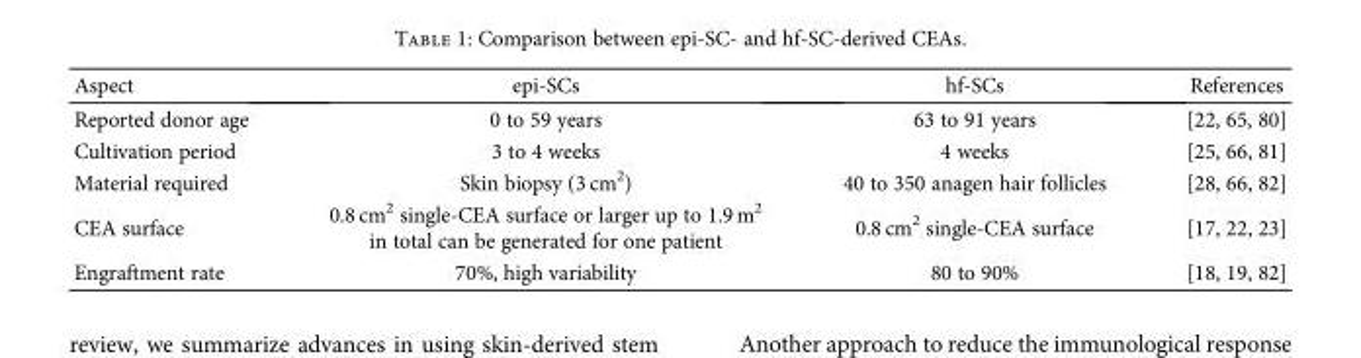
<table><thead><tr><td>Aspect</td><td>epi-SCs</td><td>hf-SCs</td><td>References</td></tr></thead><tbody><tr><td>Reported donor age</td><td>0 to 59 years</td><td>63 to 91 years</td><td>[22, 65, 80]</td></tr><tr><td>Cultivation period</td><td>3 to 4 weeks</td><td>4 weeks</td><td>[25, 66, 81]</td></tr><tr><td>Material required</td><td>Skin biopsy (3 cm<sup>2</sup>)</td><td>40 to 350 anagen hair follicles</td><td>[28, 66, 82]</td></tr><tr><td>CEA surface</td><td>0.8 cm<sup>2</sup> single-CEA surface or larger up to 1.9 m<sup>2</sup> in total can be generated for one patient</td><td>0.8 cm<sup>2</sup> single-CEA surface</td><td>[17, 22, 23]</td></tr><tr><td>Engraftment rate</td><td>70%, high variability</td><td>80 to 90%</td><td>[18, 19, 82]</td></tr></tbody></table>